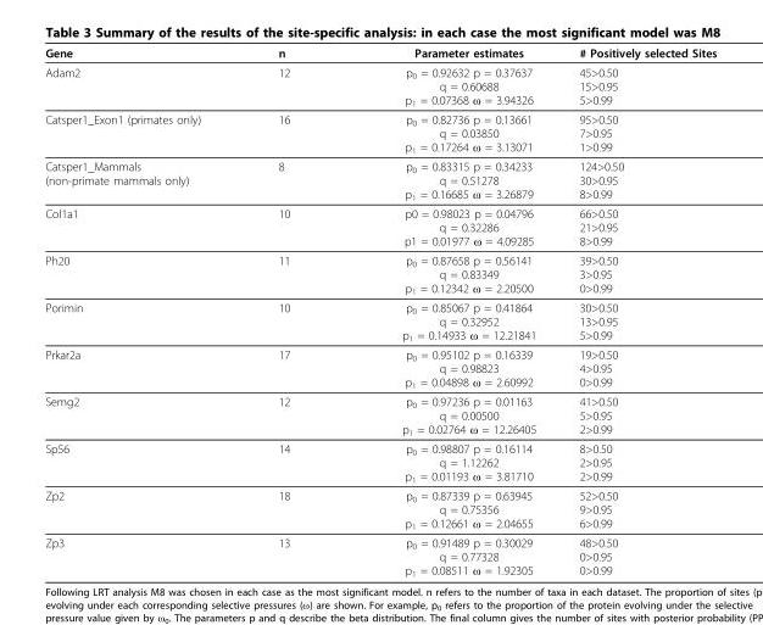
<table><thead><tr><td>Gene</td><td>n</td><td>Parameter estimates</td><td># Positively selected Sites</td></tr></thead><tbody><tr><td>Adam2</td><td>12</td><td>p0 = 0.92632 p = 0.37637 q = 0.60688 p1 = 0.07368 ω = 3.94326</td><td>45&gt;0.50 15&gt;0.95 5&gt;0.99</td></tr><tr><td>Catsper1_Exon1 (primates only)</td><td>16</td><td>p0 = 0.82736 p = 0.13661 q = 0.03850 p1 = 0.17264 ω = 3.13071</td><td>95&gt;0.50 7&gt;0.95 1&gt;0.99</td></tr><tr><td>Catsper1_Mammals (non-primate mammals only)</td><td>8</td><td>p0 = 0.83315 p = 0.34233 q = 0.51278 p1 = 0.16685 ω = 3.26879</td><td>124&gt;0.50 30&gt;0.95 8&gt;0.99</td></tr><tr><td>Col1a1</td><td>10</td><td>p0 = 0.98023 p = 0.04796 q = 0.32286 p1 = 0.01977 ω = 4.09285</td><td>66&gt;0.50 21&gt;0.95 8&gt;0.99</td></tr><tr><td>Ph20</td><td>11</td><td>p0 = 0.87658 p = 0.56141 q = 0.83349 p1 = 0.12342 ω = 2.20500</td><td>39&gt;0.50 3&gt;0.95 0&gt;0.99</td></tr><tr><td>Porimin</td><td>10</td><td>p0 = 0.85067 p = 0.41864 q = 0.32952 p1 = 0.14933 ω = 12.21841</td><td>30&gt;0.50 13&gt;0.95 5&gt;0.99</td></tr><tr><td>Prkar2a</td><td>17</td><td>p0 = 0.95102 p = 0.16339 q = 0.98823 p1 = 0.04898 ω = 2.60992</td><td>19&gt;0.50 4&gt;0.95 0&gt;0.99</td></tr><tr><td>Semg2</td><td>12</td><td>p0 = 0.97236 p = 0.01163 q = 0.00500 p1 = 0.02764 ω = 12.26405</td><td>41&gt;0.50 5&gt;0.95 2&gt;0.99</td></tr><tr><td>Sp56</td><td>14</td><td>p0 = 0.98807 p = 0.16114 q = 1.12262 p1 = 0.01193 ω = 3.81710</td><td>8&gt;0.50 2&gt;0.95 2&gt;0.99</td></tr><tr><td>Zp2</td><td>18</td><td>p0 = 0.87339 p = 0.63945 q = 0.75356 p1 = 0.12661 ω = 2.04655</td><td>52&gt;0.50 9&gt;0.95 6&gt;0.99</td></tr><tr><td>Zp3</td><td>13</td><td>p0 = 0.91489 p = 0.30029 q = 0.77328 p1 = 0.08511 ω = 1.92305</td><td>48&gt;0.50 0&gt;0.95 0&gt;0.99</td></tr></tbody></table>